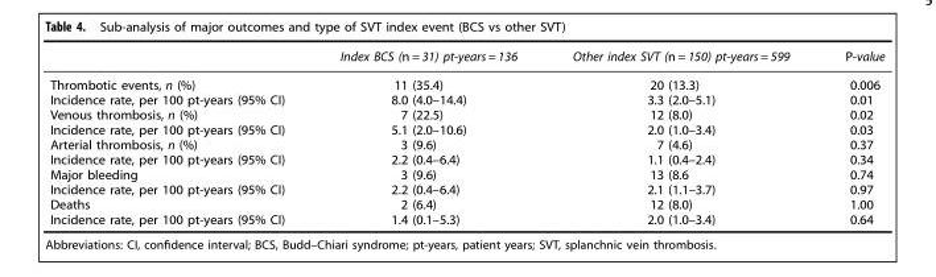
<table><thead><tr><td></td><td>Index BCS (n = 31) pt-years = 136</td><td>Other index SVT (n = 150) pt-years = 599</td><td>P-value</td></tr></thead><tbody><tr><td>Thrombotic events, n (%)</td><td>11 (35.4)</td><td>20 (13.3)</td><td>0.006</td></tr><tr><td>Incidence rate, per 100 pt-years (95% CI)</td><td>8.0 (4.0–14.4)</td><td>3.3 (2.0–5.1)</td><td>0.01</td></tr><tr><td>Venous thrombosis, n (%)</td><td>7 (22.5)</td><td>12 (8.0)</td><td>0.02</td></tr><tr><td>Incidence rate, per 100 pt-years (95% CI)</td><td>5.1 (2.0–10.6)</td><td>2.0 (1.0–3.4)</td><td>0.03</td></tr><tr><td>Arterial thrombosis, n (%)</td><td>3 (9.6)</td><td>7 (4.6)</td><td>0.37</td></tr><tr><td>Incidence rate, per 100 pt-years (95% CI)</td><td>2.2 (0.4–6.4)</td><td>1.1 (0.4–2.4)</td><td>0.34</td></tr><tr><td>Major bleeding</td><td>3 (9.6)</td><td>13 (8.6</td><td>0.74</td></tr><tr><td>Incidence rate, per 100 pt-years (95% CI)</td><td>2.2 (0.4–6.4)</td><td>2.1 (1.1–3.7)</td><td>0.97</td></tr><tr><td>Deaths</td><td>2 (6.4)</td><td>12 (8.0)</td><td>1.00</td></tr><tr><td>Incidence rate, per 100 pt-years (95% CI)</td><td>1.4 (0.1–5.3)</td><td>2.0 (1.0–3.4)</td><td>0.64</td></tr></tbody></table>